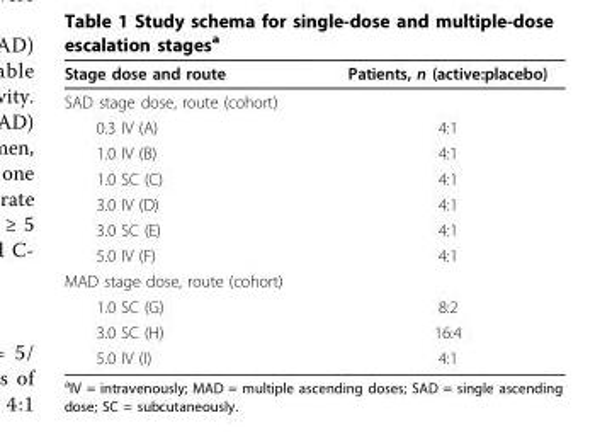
<table><thead><tr><td>Stage dose and route</td><td>Patients, n (active:placebo)</td></tr></thead><tbody><tr><td colspan="2">SAD stage dose, route (cohort)</td></tr><tr><td>0.3 IV (A)</td><td>4:1</td></tr><tr><td>1.0 IV (B)</td><td>4:1</td></tr><tr><td>1.0 SC (C)</td><td>4:1</td></tr><tr><td>3.0 IV (D)</td><td>4:1</td></tr><tr><td>3.0 SC (E)</td><td>4:1</td></tr><tr><td>5.0 IV (F)</td><td>4:1</td></tr><tr><td colspan="2">MAD stage dose, route (cohort)</td></tr><tr><td>1.0 SC (G)</td><td>8:2</td></tr><tr><td>3.0 SC (H)</td><td>16:4</td></tr><tr><td>5.0 IV (I)</td><td>4:1</td></tr></tbody></table>